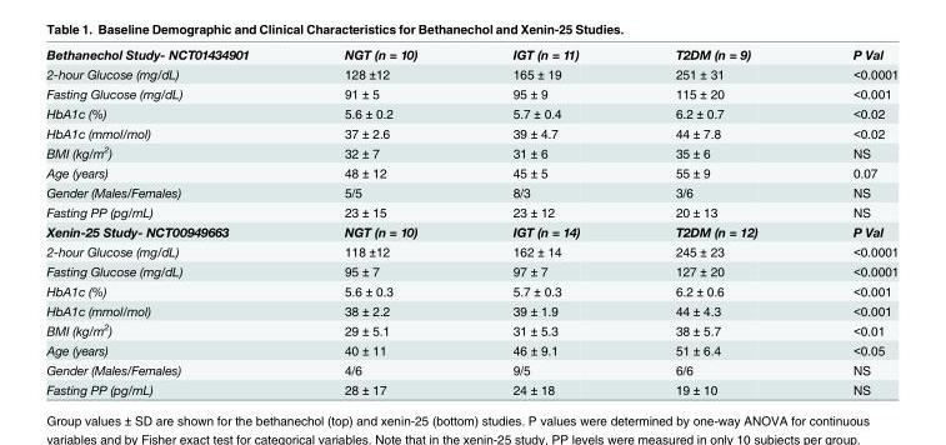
<table><tbody><tr><td>Bethanechol Study- NCT01434901</td><td>NGT (n = 10)</td><td>IGT (n = 11)</td><td>T2DM (n = 9)</td><td>P Val</td></tr><tr><td>2-hour Glucose (mg/dL)</td><td>128 ±12</td><td>165 ± 19</td><td>251 ± 31</td><td>&lt;0.0001</td></tr><tr><td>Fasting Glucose (mg/dL)</td><td>91 ± 5</td><td>95 ± 9</td><td>115 ± 20</td><td>&lt;0.001</td></tr><tr><td>HbA1c (%)</td><td>5.6 ± 0.2</td><td>5.7 ± 0.4</td><td>6.2 ± 0.7</td><td>&lt;0.02</td></tr><tr><td>HbA1c (mmol/mol)</td><td>37 ± 2.6</td><td>39 ± 4.7</td><td>44 ± 7.8</td><td>&lt;0.02</td></tr><tr><td>BMI (kg/m<sup>2</sup>)</td><td>32 ± 7</td><td>31 ± 6</td><td>35 ± 6</td><td>NS</td></tr><tr><td>Age (years)</td><td>48 ± 12</td><td>45 ± 5</td><td>55 ± 9</td><td>0.07</td></tr><tr><td>Gender (Males/Females)</td><td>5/5</td><td>8/3</td><td>3/6</td><td>NS</td></tr><tr><td>Fasting PP (pg/mL)</td><td>23 ± 15</td><td>23 ± 12</td><td>20 ± 13</td><td>NS</td></tr><tr><td>Xenin-25 Study- NCT00949663</td><td>NGT (n = 10)</td><td>IGT (n = 14)</td><td>T2DM (n = 12)</td><td>P Val</td></tr><tr><td>2-hour Glucose (mg/dL)</td><td>118 ±12</td><td>162 ± 14</td><td>245 ± 23</td><td>&lt;0.0001</td></tr><tr><td>Fasting Glucose (mg/dL)</td><td>95 ± 7</td><td>97 ± 7</td><td>127 ± 20</td><td>&lt;0.0001</td></tr><tr><td>HbA1c (%)</td><td>5.6 ± 0.3</td><td>5.7 ± 0.3</td><td>6.2 ± 0.6</td><td>&lt;0.001</td></tr><tr><td>HbA1c (mmol/mol)</td><td>38 ± 2.2</td><td>39 ± 1.9</td><td>44 ± 4.3</td><td>&lt;0.001</td></tr><tr><td>BMI (kg/m<sup>2</sup>)</td><td>29 ± 5.1</td><td>31 ± 5.3</td><td>38 ± 5.7</td><td>&lt;0.01</td></tr><tr><td>Age (years)</td><td>40 ± 11</td><td>46 ± 9.1</td><td>51 ± 6.4</td><td>&lt;0.05</td></tr><tr><td>Gender (Males/Females)</td><td>4/6</td><td>9/5</td><td>6/6</td><td>NS</td></tr><tr><td>Fasting PP (pg/mL)</td><td>28 ± 17</td><td>24 ± 18</td><td>19 ± 10</td><td>NS</td></tr></tbody></table>